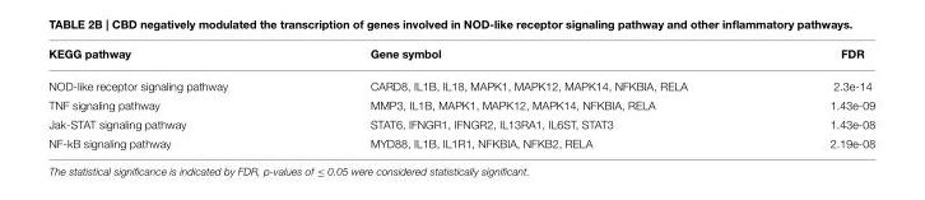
<table><thead><tr><td>KEGG pathway</td><td>Gene symbol</td><td>FDR</td></tr></thead><tbody><tr><td>NOD-like receptor signaling pathway</td><td>CARD8, IL1B, IL18, MAPK1, MAPK12, MAPK14, NFKBIA, RELA</td><td>2.3e-14</td></tr><tr><td>TNF signaling pathway</td><td>MMP3, IL1B, MAPK1, MAPK12, MAPK14, NFKBIA, RELA</td><td>1.43e-09</td></tr><tr><td>Jak-STAT signaling pathway</td><td>STAT6, IFNGR1, IFNGR2, IL13RA1, IL6ST, STAT3</td><td>1.43e-08</td></tr><tr><td>NF-kB signaling pathway</td><td>MYD88, IL1B, IL1R1, NFKBIA, NFKB2, RELA</td><td>2.19e-08</td></tr></tbody></table>